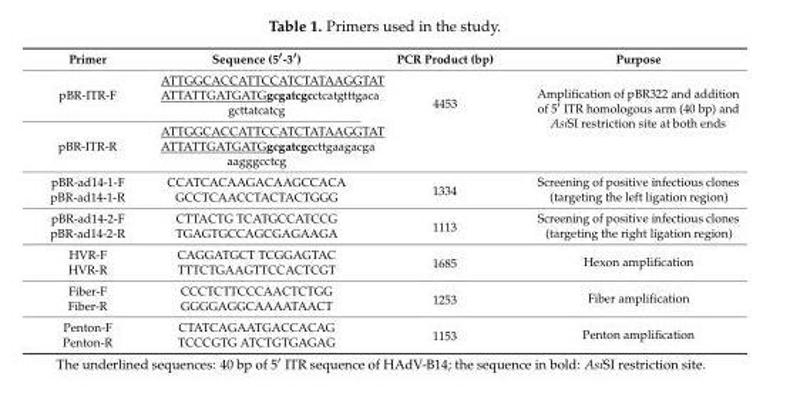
<table><thead><tr><td>Primer</td><td>Sequence (5′-3′)</td><td>PCR Product (bp)</td><td>Purpose</td></tr></thead><tbody><tr><td>pBR-ITR-F</td><td>ATTGGCACCATTCCATCTATAAGGTAT ATTATTGATGATGgcgatcgcctcatgtttgaca gcttatcatcg</td><td rowspan="2">4453</td><td rowspan="2">Amplification of pBR322 and addition of 5′ ITR homologous arm (40 bp) and AsiSI restriction site at both ends</td></tr><tr><td>pBR-ITR-R</td><td>ATTGGCACCATTCCATCTATAAGGTAT ATTATTGATGATGgcgatcgccttgaagacga aagggcctcg</td></tr><tr><td>pBR-ad14-1-F</td><td>CCATCACAAGACAAGCCACA</td><td rowspan="2">1334</td><td rowspan="2">Screening of positive infectious clones (targeting the left ligation region)</td></tr><tr><td>pBR-ad14-1-R</td><td>GCCTCAACCTACTACTGGG</td></tr><tr><td>pBR-ad14-2-F</td><td>CTTACTG TCATGCCATCCG</td><td rowspan="2">1113</td><td rowspan="2">Screening of positive infectious clones (targeting the right ligation region)</td></tr><tr><td>pBR-ad14-2-R</td><td>TGAGTGCCAGCGAGAAGA</td></tr><tr><td>HVR-F</td><td>CAGGATGCT TCGGAGTAC</td><td rowspan="2">1685</td><td rowspan="2">Hexon amplification</td></tr><tr><td>HVR-R</td><td>TTTCTGAAGTTCCACTCGT</td></tr><tr><td>Fiber-F</td><td>CCCTCTTCCCAACTCTGG</td><td rowspan="2">1253</td><td rowspan="2">Fiber amplification</td></tr><tr><td>Fiber-R</td><td>GGGGAGGCAAAATAACT</td></tr><tr><td>Penton-F</td><td>CTATCAGAATGACCACAG</td><td rowspan="2">1153</td><td rowspan="2">Penton amplification</td></tr><tr><td>Penton-R</td><td>TCCCGTG ATCTGTGAGAG</td></tr></tbody></table>